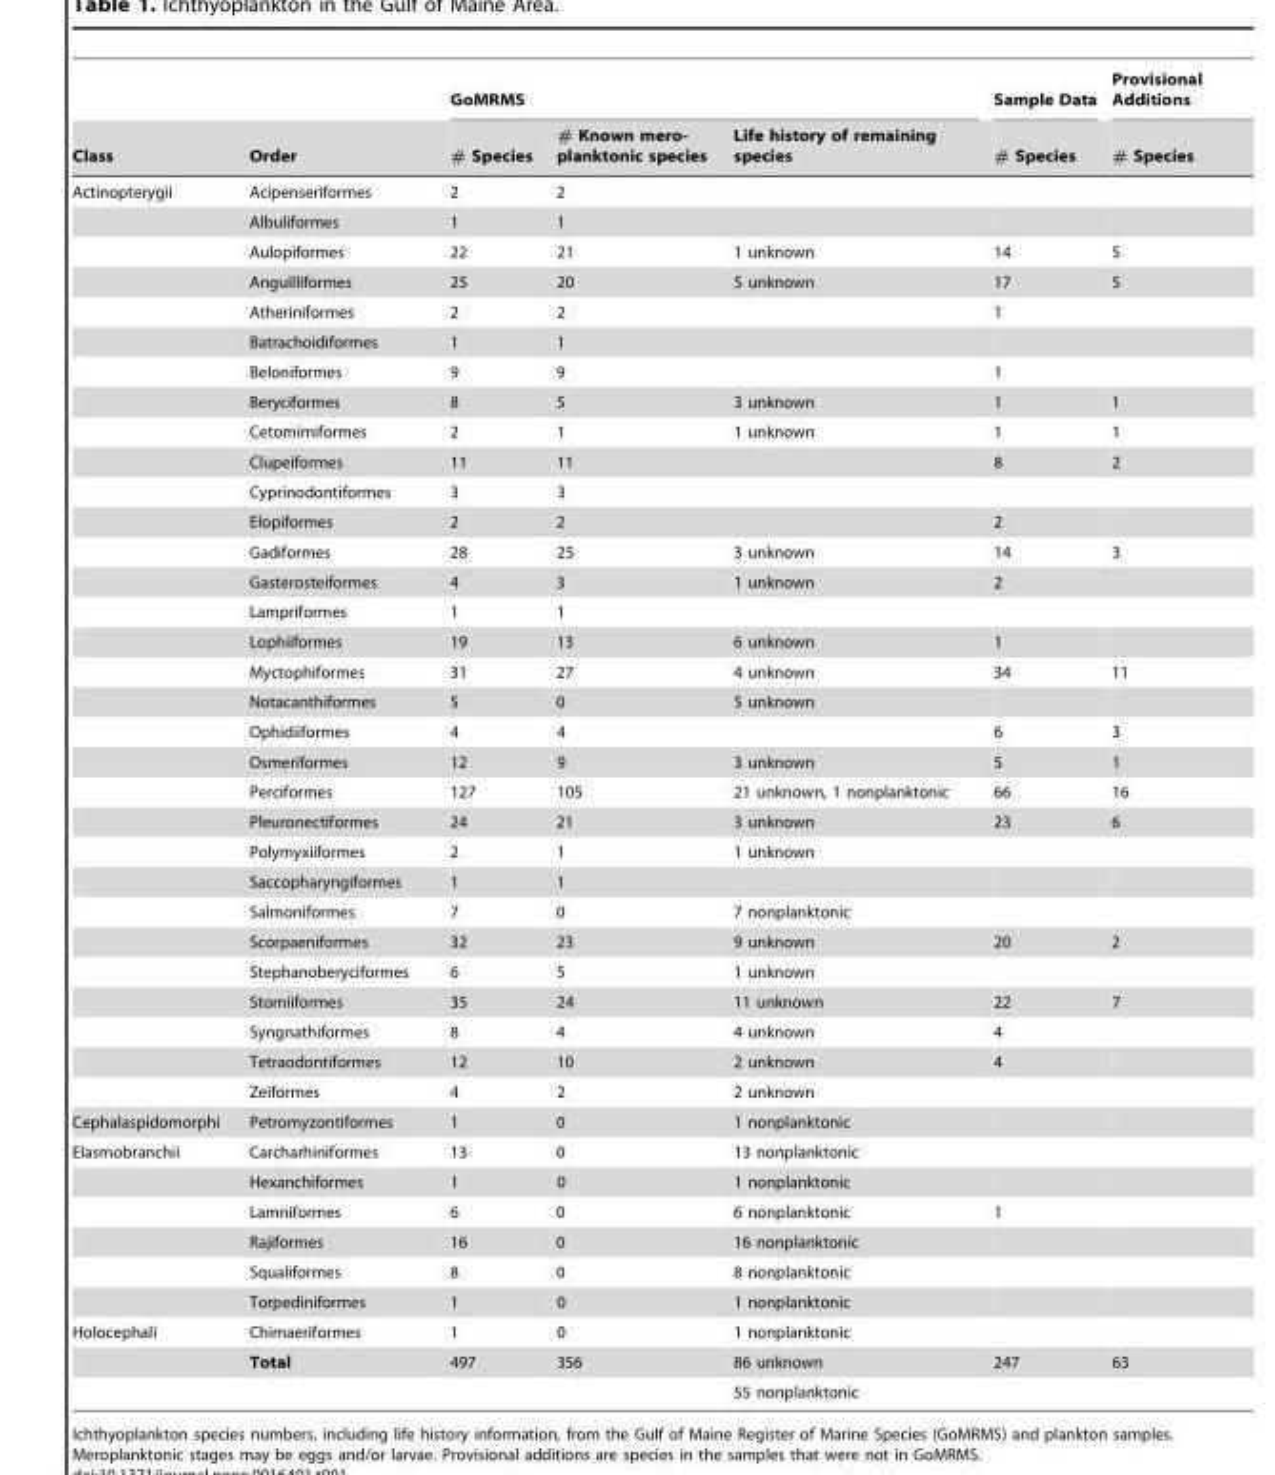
<table><thead><tr><td rowspan="2">Class</td><td rowspan="2">Order</td><td colspan="3">GoMRMS</td><td rowspan="2">Sample Data # Species</td><td rowspan="2">Provisional Additions # Species</td></tr><tr><td># Species</td><td># Known mero- planktonic species</td><td>Life history of remaining species</td></tr></thead><tbody><tr><td rowspan="31">Actinopterygii</td><td>Acipenseriformes</td><td>2</td><td>2</td><td></td><td></td><td></td></tr><tr><td>Albuliformes</td><td>1</td><td>1</td><td></td><td></td><td></td></tr><tr><td>Aulopiformes</td><td>22</td><td>21</td><td>1 unknown</td><td>14</td><td>5</td></tr><tr><td>Anguilliformes</td><td>25</td><td>20</td><td>5 unknown</td><td>17</td><td>5</td></tr><tr><td>Atheriniformes</td><td>2</td><td>2</td><td></td><td>1</td><td></td></tr><tr><td>Batrachoidiformes</td><td>1</td><td>1</td><td></td><td></td><td></td></tr><tr><td>Beloniformes</td><td>9</td><td>9</td><td></td><td>1</td><td></td></tr><tr><td>Beryciformes</td><td>8</td><td>5</td><td>3 unknown</td><td>1</td><td>1</td></tr><tr><td>Cetomimiformes</td><td>2</td><td>1</td><td>1 unknown</td><td>1</td><td>1</td></tr><tr><td>Clupeiformes</td><td>11</td><td>11</td><td></td><td>8</td><td>2</td></tr><tr><td>Cyprinodontiformes</td><td>3</td><td>3</td><td></td><td></td><td></td></tr><tr><td>Elopiformes</td><td>2</td><td>2</td><td></td><td>2</td><td></td></tr><tr><td>Gadiformes</td><td>28</td><td>25</td><td>3 unknown</td><td>14</td><td>3</td></tr><tr><td>Gasterosteiformes</td><td>4</td><td>3</td><td>1 unknown</td><td>2</td><td></td></tr><tr><td>Lampriformes</td><td>1</td><td>1</td><td></td><td></td><td></td></tr><tr><td>Lophiiformes</td><td>19</td><td>13</td><td>6 unknown</td><td>1</td><td></td></tr><tr><td>Myctophiformes</td><td>31</td><td>27</td><td>4 unknown</td><td>34</td><td>11</td></tr><tr><td>Notacanthiformes</td><td>5</td><td>0</td><td>5 unknown</td><td></td><td></td></tr><tr><td>Ophidiiformes</td><td>4</td><td>4</td><td></td><td>6</td><td>3</td></tr><tr><td>Osmeriformes</td><td>12</td><td>9</td><td>3 unknown</td><td>5</td><td>1</td></tr><tr><td>Perciformes</td><td>127</td><td>105</td><td>21 unknown, 1 nonplanktonic</td><td>66</td><td>16</td></tr><tr><td>Pleuronectiformes</td><td>24</td><td>21</td><td>3 unknown</td><td>23</td><td>6</td></tr><tr><td>Polymyxiiformes</td><td>2</td><td>1</td><td>1 unknown</td><td></td><td></td></tr><tr><td>Saccopharyngiformes</td><td>1</td><td>1</td><td></td><td></td><td></td></tr><tr><td>Salmoniformes</td><td>7</td><td>0</td><td>7 nonplanktonic</td><td></td><td></td></tr><tr><td>Scorpaeniformes</td><td>32</td><td>23</td><td>9 unknown</td><td>20</td><td>2</td></tr><tr><td>Stephanoberyciformes</td><td>6</td><td>5</td><td>1 unknown</td><td></td><td></td></tr><tr><td>Stomiiformes</td><td>35</td><td>24</td><td>11 unknown</td><td>22</td><td>7</td></tr><tr><td>Syngnathiformes</td><td>8</td><td>4</td><td>4 unknown</td><td>4</td><td></td></tr><tr><td>Tetraodontiformes</td><td>12</td><td>10</td><td>2 unknown</td><td>4</td><td></td></tr><tr><td>Zeiformes</td><td>4</td><td>2</td><td>2 unknown</td><td></td><td></td></tr><tr><td>Cephalaspidomorphi</td><td>Petromyzontiformes</td><td>1</td><td>0</td><td>1 nonplanktonic</td><td></td><td></td></tr><tr><td rowspan="6">Elasmobranchii</td><td>Carcharhiniformes</td><td>13</td><td>0</td><td>13 nonplanktonic</td><td></td><td></td></tr><tr><td>Hexanchiformes</td><td>1</td><td>0</td><td>1 nonplanktonic</td><td></td><td></td></tr><tr><td>Lamniformes</td><td>6</td><td>0</td><td>6 nonplanktonic</td><td>1</td><td></td></tr><tr><td>Rajiformes</td><td>16</td><td>0</td><td>16 nonplanktonic</td><td></td><td></td></tr><tr><td>Squaliformes</td><td>8</td><td>0</td><td>8 nonplanktonic</td><td></td><td></td></tr><tr><td>Torpediniformes</td><td>1</td><td>0</td><td>1 nonplanktonic</td><td></td><td></td></tr><tr><td rowspan="3">Holocephali</td><td>Chimaeriformes</td><td>1</td><td>0</td><td>1 nonplanktonic</td><td></td><td></td></tr><tr><td>Total</td><td>497</td><td>356</td><td>86 unknown</td><td>247</td><td>63</td></tr><tr><td></td><td></td><td></td><td>55 nonplanktonic</td><td></td><td></td></tr></tbody></table>